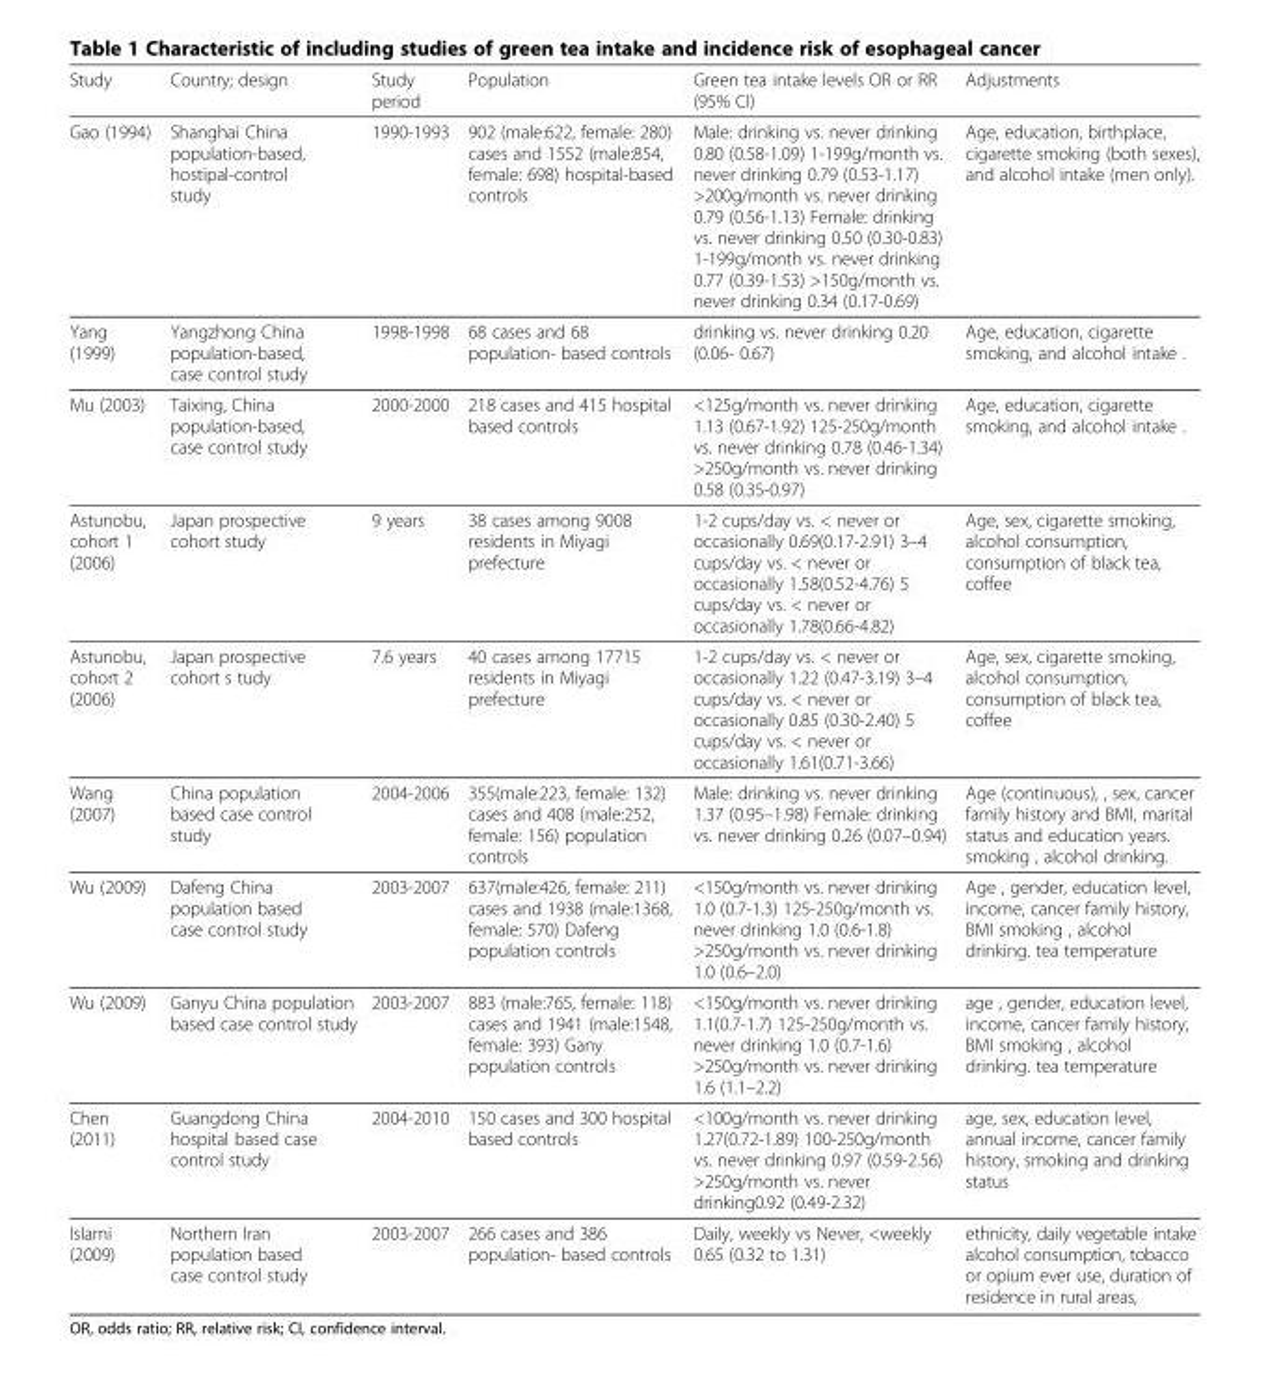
<table><thead><tr><td>Study</td><td>Country; design</td><td>Study period</td><td>Population</td><td>Green tea intake levels OR or RR (95% CI)</td><td>Adjustments</td></tr></thead><tbody><tr><td>Gao (1994)</td><td>Shanghai China population-based, hostipal-control study</td><td>1990-1993</td><td>902 (male:622, female: 280) cases and 1552 (male:854, female: 698) hospital-based controls</td><td>Male: drinking vs. never drinking 0.80 (0.58-1.09) 1-199g/month vs. never drinking 0.79 (0.53-1.17) &gt;200g/month vs. never drinking 0.79 (0.56-1.13) Female: drinking vs. never drinking 0.50 (0.30-0.83) 1-199g/month vs. never drinking 0.77 (0.39-1.53) &gt;150g/month vs. never drinking 0.34 (0.17-0.69)</td><td>Age, education, birthplace, cigarette smoking (both sexes), and alcohol intake (men only).</td></tr><tr><td>Yang (1999)</td><td>Yangzhong China population-based, case control study</td><td>1998-1998</td><td>68 cases and 68 population- based controls</td><td>drinking vs. never drinking 0.20 (0.06- 0.67)</td><td>Age, education, cigarette smoking, and alcohol intake .</td></tr><tr><td>Mu (2003)</td><td>Taixing, China population-based, case control study</td><td>2000-2000</td><td>218 cases and 415 hospital based controls</td><td>&lt;125g/month vs. never drinking 1.13 (0.67-1.92) 125-250g/month vs. never drinking 0.78 (0.46-1.34) &gt;250g/month vs. never drinking 0.58 (0.35-0.97)</td><td>Age, education, cigarette smoking, and alcohol intake .</td></tr><tr><td>Astunobu, cohort 1 (2006)</td><td>Japan prospective cohort study</td><td>9 years</td><td>38 cases among 9008 residents in Miyagi prefecture</td><td>1-2 cups/day vs. &lt; never or occasionally 0.69(0.17-2.91) 3–4 cups/day vs. &lt; never or occasionally 1.58(0.52-4.76) 5 cups/day vs. &lt; never or occasionally 1.78(0.66-4.82)</td><td>Age, sex, cigarette smoking, alcohol consumption, consumption of black tea, coffee</td></tr><tr><td>Astunobu, cohort 2 (2006)</td><td>Japan prospective cohort s tudy</td><td>7.6 years</td><td>40 cases among 17715 residents in Miyagi prefecture</td><td>1-2 cups/day vs. &lt; never or occasionally 1.22 (0.47-3.19) 3–4 cups/day vs. &lt; never or occasionally 0.85 (0.30-2.40) 5 cups/day vs. &lt; never or occasionally 1.61(0.71-3.66)</td><td>Age, sex, cigarette smoking, alcohol consumption, consumption of black tea, coffee</td></tr><tr><td>Wang (2007)</td><td>China population based case control study</td><td>2004-2006</td><td>355(male:223, female: 132) cases and 408 (male:252, female: 156) population controls</td><td>Male: drinking vs. never drinking 1.37 (0.95–1.98) Female: drinking vs. never drinking 0.26 (0.07–0.94)</td><td>Age (continuous), , sex, cancer family history and BMI, marital status and education years. smoking , alcohol drinking.</td></tr><tr><td>Wu (2009)</td><td>Dafeng China population based case control study</td><td>2003-2007</td><td>637(male:426, female: 211) cases and 1938 (male:1368, female: 570) Dafeng population controls</td><td>&lt;150g/month vs. never drinking 1.0 (0.7-1.3) 125-250g/month vs. never drinking 1.0 (0.6-1.8) &gt;250g/month vs. never drinking 1.0 (0.6–2.0)</td><td>Age , gender, education level, income, cancer family history, BMI smoking , alcohol drinking. tea temperature</td></tr><tr><td>Wu (2009)</td><td>Ganyu China population based case control study</td><td>2003-2007</td><td>883 (male:765, female: 118) cases and 1941 (male:1548, female: 393) Gany population controls</td><td>&lt;150g/month vs. never drinking 1.1(0.7-1.7) 125-250g/month vs. never drinking 1.0 (0.7-1.6) &gt;250g/month vs. never drinking 1.6 (1.1–2.2)</td><td>age , gender, education level, income, cancer family history, BMI smoking , alcohol drinking. tea temperature</td></tr><tr><td>Chen (2011)</td><td>Guangdong China hospital based case control study</td><td>2004-2010</td><td>150 cases and 300 hospital based controls</td><td>&lt;100g/month vs. never drinking 1.27(0.72-1.89) 100-250g/month vs. never drinking 0.97 (0.59-2.56) &gt;250g/month vs. never drinking0.92 (0.49-2.32)</td><td>age, sex, education level, annual income, cancer family history, smoking and drinking status</td></tr><tr><td>Islami (2009)</td><td>Northern Iran population based case control study</td><td>2003-2007</td><td>266 cases and 386 population- based controls</td><td>Daily, weekly vs Never, &lt;weekly 0.65 (0.32 to 1.31)</td><td>ethnicity, daily vegetable intake alcohol consumption, tobacco or opium ever use, duration of residence in rural areas,</td></tr></tbody></table>